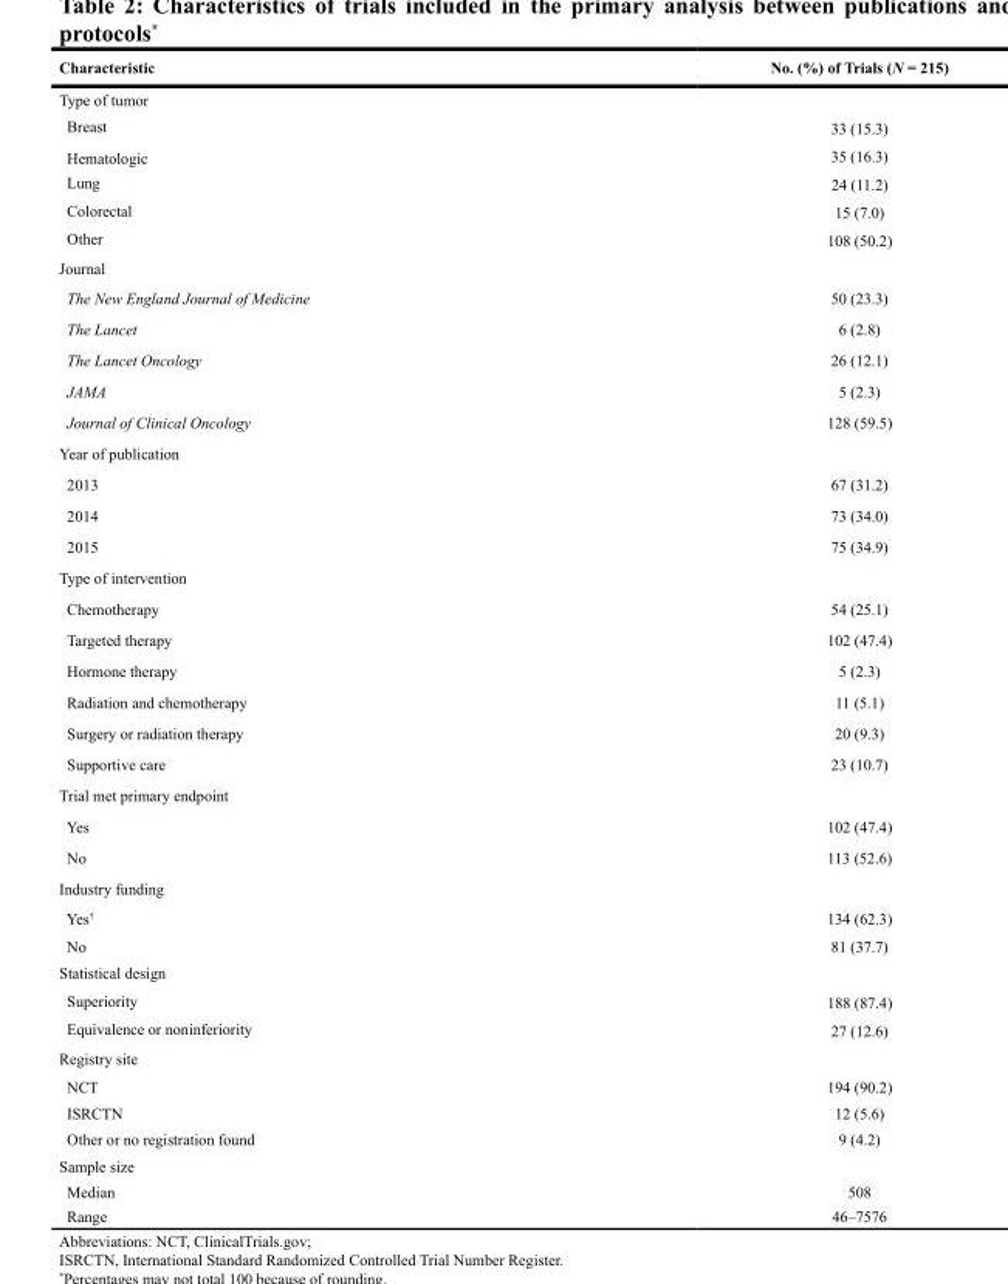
<table><thead><tr><td>Characteristic</td><td>No. (%) of Trials (N = 215)</td></tr></thead><tbody><tr><td colspan="2">Type of tumor</td></tr><tr><td>Breast</td><td>33 (15.3)</td></tr><tr><td>Hematologic</td><td>35 (16.3)</td></tr><tr><td>Lung</td><td>24 (11.2)</td></tr><tr><td>Colorectal</td><td>15 (7.0)</td></tr><tr><td>Other</td><td>108 (50.2)</td></tr><tr><td colspan="2">Journal</td></tr><tr><td>The New England Journal of Medicine</td><td>50 (23.3)</td></tr><tr><td>The Lancet</td><td>6 (2.8)</td></tr><tr><td>The Lancet Oncology</td><td>26 (12.1)</td></tr><tr><td>JAMA</td><td>5 (2.3)</td></tr><tr><td>Journal of Clinical Oncology</td><td>128 (59.5)</td></tr><tr><td colspan="2">Year of publication</td></tr><tr><td>2013</td><td>67 (31.2)</td></tr><tr><td>2014</td><td>73 (34.0)</td></tr><tr><td>2015</td><td>75 (34.9)</td></tr><tr><td colspan="2">Type of intervention</td></tr><tr><td>Chemotherapy</td><td>54 (25.1)</td></tr><tr><td>Targeted therapy</td><td>102 (47.4)</td></tr><tr><td>Hormone therapy</td><td>5 (2.3)</td></tr><tr><td>Radiation and chemotherapy</td><td>11 (5.1)</td></tr><tr><td>Surgery or radiation therapy</td><td>20 (9.3)</td></tr><tr><td>Supportive care</td><td>23 (10.7)</td></tr><tr><td colspan="2">Trial met primary endpoint</td></tr><tr><td>Yes</td><td>102 (47.4)</td></tr><tr><td>No</td><td>113 (52.6)</td></tr><tr><td colspan="2">Industry funding</td></tr><tr><td>Yes<sup>†</sup></td><td>134 (62.3)</td></tr><tr><td>No</td><td>81 (37.7)</td></tr><tr><td colspan="2">Statistical design</td></tr><tr><td>Superiority</td><td>188 (87.4)</td></tr><tr><td>Equivalence or noninferiority</td><td>27 (12.6)</td></tr><tr><td colspan="2">Registry site</td></tr><tr><td>NCT</td><td>194 (90.2)</td></tr><tr><td>ISRCTN</td><td>12 (5.6)</td></tr><tr><td>Other or no registration found</td><td>9 (4.2)</td></tr><tr><td colspan="2">Sample size</td></tr><tr><td>Median</td><td>508</td></tr><tr><td>Range</td><td>46–7576</td></tr></tbody></table>